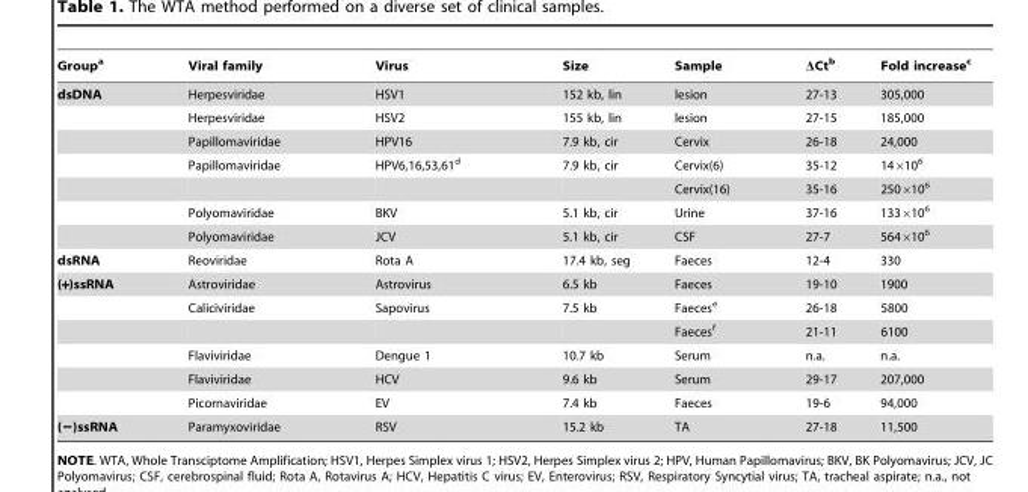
<table><thead><tr><td>Group<sup>a</sup></td><td>Viral family</td><td>Virus</td><td>Size</td><td>Sample</td><td>ΔCt<sup>b</sup></td><td>Fold increase<sup>c</sup></td></tr></thead><tbody><tr><td rowspan="7">dsDNA</td><td>Herpesviridae</td><td>HSV1</td><td>152 kb, lin</td><td>lesion</td><td>27-13</td><td>305,000</td></tr><tr><td>Herpesviridae</td><td>HSV2</td><td>155 kb, lin</td><td>lesion</td><td>27-15</td><td>185,000</td></tr><tr><td>Papillomaviridae</td><td>HPV16</td><td>7.9 kb, cir</td><td>Cervix</td><td>26-18</td><td>24,000</td></tr><tr><td>Papillomaviridae</td><td>HPV6,16,53,61<sup>d</sup></td><td>7.9 kb, cir</td><td>Cervix(6)</td><td>35-12</td><td>14×10<sup>6</sup></td></tr><tr><td></td><td></td><td></td><td>Cervix(16)</td><td>35-16</td><td>250×10<sup>6</sup></td></tr><tr><td>Polyomaviridae</td><td>BKV</td><td>5.1 kb, cir</td><td>Urine</td><td>37-16</td><td>133×10<sup>6</sup></td></tr><tr><td>Polyomaviridae</td><td>JCV</td><td>5.1 kb, cir</td><td>CSF</td><td>27-7</td><td>564×10<sup>6</sup></td></tr><tr><td>dsRNA</td><td>Reoviridae</td><td>Rota A</td><td>17.4 kb, seg</td><td>Faeces</td><td>12-4</td><td>330</td></tr><tr><td rowspan="6">(+)ssRNA</td><td>Astroviridae</td><td>Astrovirus</td><td>6.5 kb</td><td>Faeces</td><td>19-10</td><td>1900</td></tr><tr><td>Caliciviridae</td><td>Sapovirus</td><td>7.5 kb</td><td>Faeces<sup>e</sup></td><td>26-18</td><td>5800</td></tr><tr><td></td><td></td><td></td><td>Faeces<sup>f</sup></td><td>21-11</td><td>6100</td></tr><tr><td>Flaviviridae</td><td>Dengue 1</td><td>10.7 kb</td><td>Serum</td><td>n.a.</td><td>n.a.</td></tr><tr><td>Flaviviridae</td><td>HCV</td><td>9.6 kb</td><td>Serum</td><td>29-17</td><td>207,000</td></tr><tr><td>Picornaviridae</td><td>EV</td><td>7.4 kb</td><td>Faeces</td><td>19-6</td><td>94,000</td></tr><tr><td>(−)ssRNA</td><td>Paramyxoviridae</td><td>RSV</td><td>15.2 kb</td><td>TA</td><td>27-18</td><td>11,500</td></tr></tbody></table>